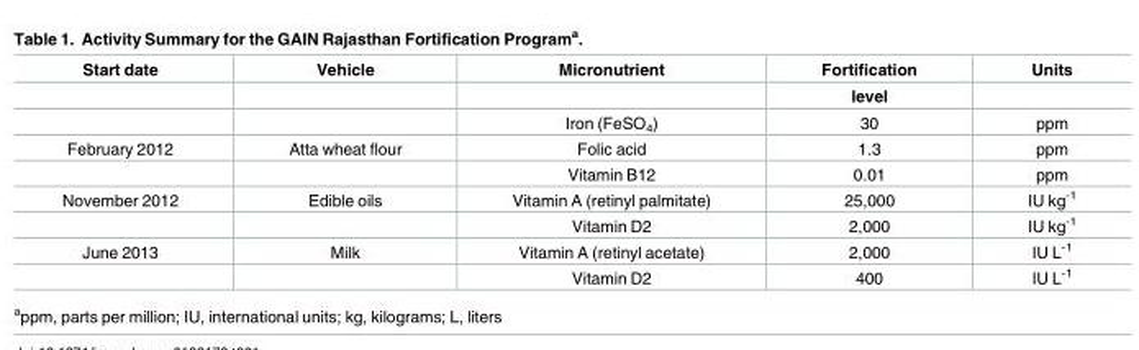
<table><thead><tr><td rowspan="2">Start date</td><td rowspan="2">Vehicle</td><td rowspan="2">Micronutrient</td><td rowspan="2">Fortification level</td><td rowspan="2">Units</td></tr><tr></tr></thead><tbody><tr><td></td><td></td><td>Iron (FeSO<sub>4</sub>)</td><td>30</td><td>ppm</td></tr><tr><td rowspan="2">February 2012</td><td>Atta wheat flour</td><td>Folic acid</td><td>1.3</td><td>ppm</td></tr><tr><td></td><td>Vitamin B12</td><td>0.01</td><td>ppm</td></tr><tr><td rowspan="2">November 2012</td><td>Edible oils</td><td>Vitamin A (retinyl palmitate)</td><td>25,000</td><td>IU kg<sup>-1</sup></td></tr><tr><td></td><td>Vitamin D2</td><td>2,000</td><td>IU kg<sup>-1</sup></td></tr><tr><td rowspan="2">June 2013</td><td>Milk</td><td>Vitamin A (retinyl acetate)</td><td>2,000</td><td>IU L<sup>-1</sup></td></tr><tr><td></td><td>Vitamin D2</td><td>400</td><td>IU L<sup>-1</sup></td></tr></tbody></table>